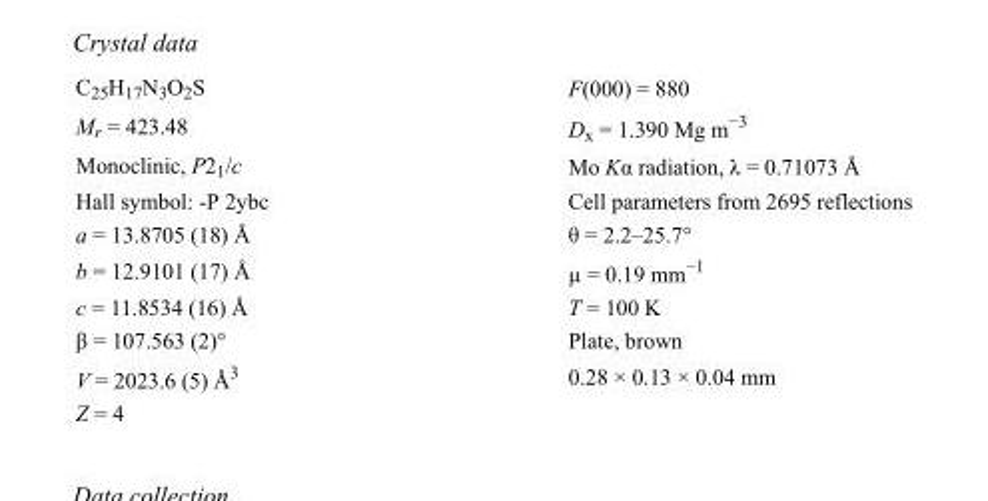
<table><tbody><tr><td>C<sub>25</sub>H<sub>17</sub>N<sub>3</sub>O<sub>2</sub>S</td><td>F(000) = 880</td></tr><tr><td>M<sub>r</sub> = 423.48</td><td>D<sub>x</sub> = 1.390 Mg m<sup>−3</sup></td></tr><tr><td>Monoclinic, P2<sub>1</sub>/c</td><td>Mo Kα radiation, λ = 0.71073 Å</td></tr><tr><td>Hall symbol: -P 2ybc</td><td>Cell parameters from 2695 reflections</td></tr><tr><td>a = 13.8705 (18) Å</td><td>θ = 2.2–25.7°</td></tr><tr><td>b = 12.9101 (17) Å</td><td>µ = 0.19 mm<sup>−1</sup></td></tr><tr><td>c = 11.8534 (16) Å</td><td>T = 100 K</td></tr><tr><td>β = 107.563 (2)°</td><td>Plate, brown</td></tr><tr><td>V = 2023.6 (5) Å<sup>3</sup></td><td>0.28 × 0.13 × 0.04 mm</td></tr><tr><td>Z = 4</td><td></td></tr></tbody></table>